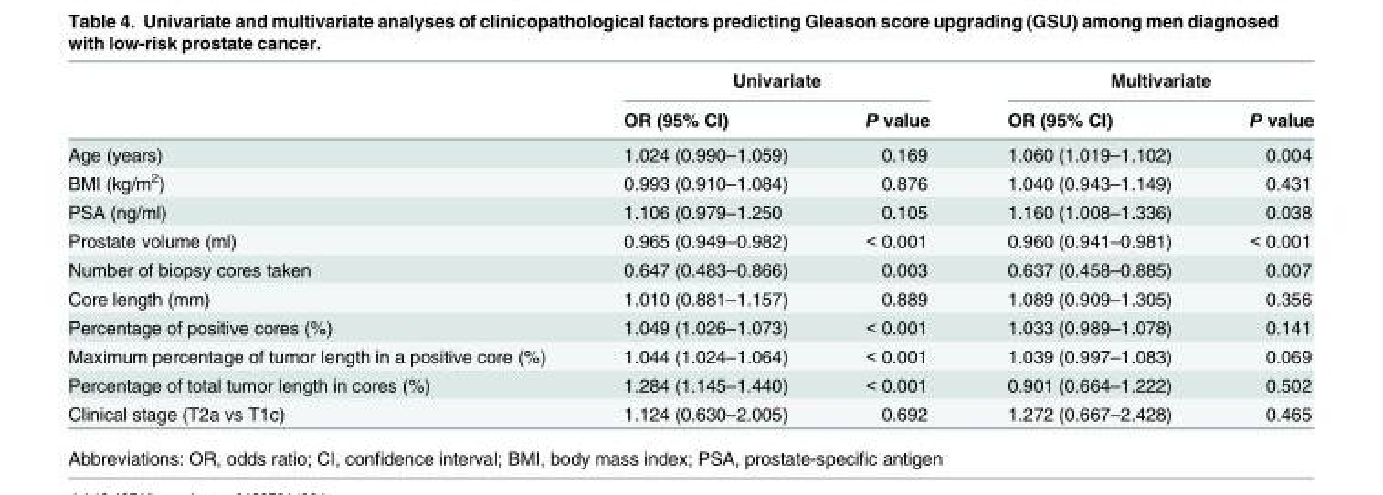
<table><thead><tr><td rowspan="2"></td><td colspan="2">Univariate</td><td colspan="2">Multivariate</td></tr><tr><td>OR (95% CI)</td><td>P value</td><td>OR (95% CI)</td><td>P value</td></tr></thead><tbody><tr><td>Age (years)</td><td>1.024 (0.990–1.059)</td><td>0.169</td><td>1.060 (1.019–1.102)</td><td>0.004</td></tr><tr><td>BMI (kg/m<sup>2</sup>)</td><td>0.993 (0.910–1.084)</td><td>0.876</td><td>1.040 (0.943–1.149)</td><td>0.431</td></tr><tr><td>PSA (ng/ml)</td><td>1.106 (0.979–1.250</td><td>0.105</td><td>1.160 (1.008–1.336)</td><td>0.038</td></tr><tr><td>Prostate volume (ml)</td><td>0.965 (0.949–0.982)</td><td>&lt; 0.001</td><td>0.960 (0.941–0.981)</td><td>&lt; 0.001</td></tr><tr><td>Number of biopsy cores taken</td><td>0.647 (0.483–0.866)</td><td>0.003</td><td>0.637 (0.458–0.885)</td><td>0.007</td></tr><tr><td>Core length (mm)</td><td>1.010 (0.881–1.157)</td><td>0.889</td><td>1.089 (0.909–1.305)</td><td>0.356</td></tr><tr><td>Percentage of positive cores (%)</td><td>1.049 (1.026–1.073)</td><td>&lt; 0.001</td><td>1.033 (0.989–1.078)</td><td>0.141</td></tr><tr><td>Maximum percentage of tumor length in a positive core (%)</td><td>1.044 (1.024–1.064)</td><td>&lt; 0.001</td><td>1.039 (0.997–1.083)</td><td>0.069</td></tr><tr><td>Percentage of total tumor length in cores (%)</td><td>1.284 (1.145–1.440)</td><td>&lt; 0.001</td><td>0.901 (0.664–1.222)</td><td>0.502</td></tr><tr><td>Clinical stage (T2a vs T1c)</td><td>1.124 (0.630–2.005)</td><td>0.692</td><td>1.272 (0.667–2.428)</td><td>0.465</td></tr></tbody></table>